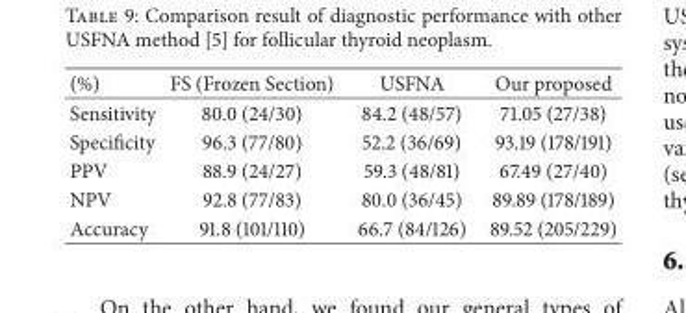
<table><thead><tr><td>(%)</td><td>FS (Frozen Section)</td><td>USFNA</td><td>Our proposed</td></tr></thead><tbody><tr><td>Sensitivity</td><td>80.0 (24/30)</td><td>84.2 (48/57)</td><td>71.05 (27/38)</td></tr><tr><td>Specificity</td><td>96.3 (77/80)</td><td>52.2 (36/69)</td><td>93.19 (178/191)</td></tr><tr><td>PPV</td><td>88.9 (24/27)</td><td>59.3 (48/81)</td><td>67.49 (27/40)</td></tr><tr><td>NPV</td><td>92.8 (77/83)</td><td>80.0 (36/45)</td><td>89.89 (178/189)</td></tr><tr><td>Accuracy</td><td>91.8 (101/110)</td><td>66.7 (84/126)</td><td>89.52 (205/229)</td></tr></tbody></table>